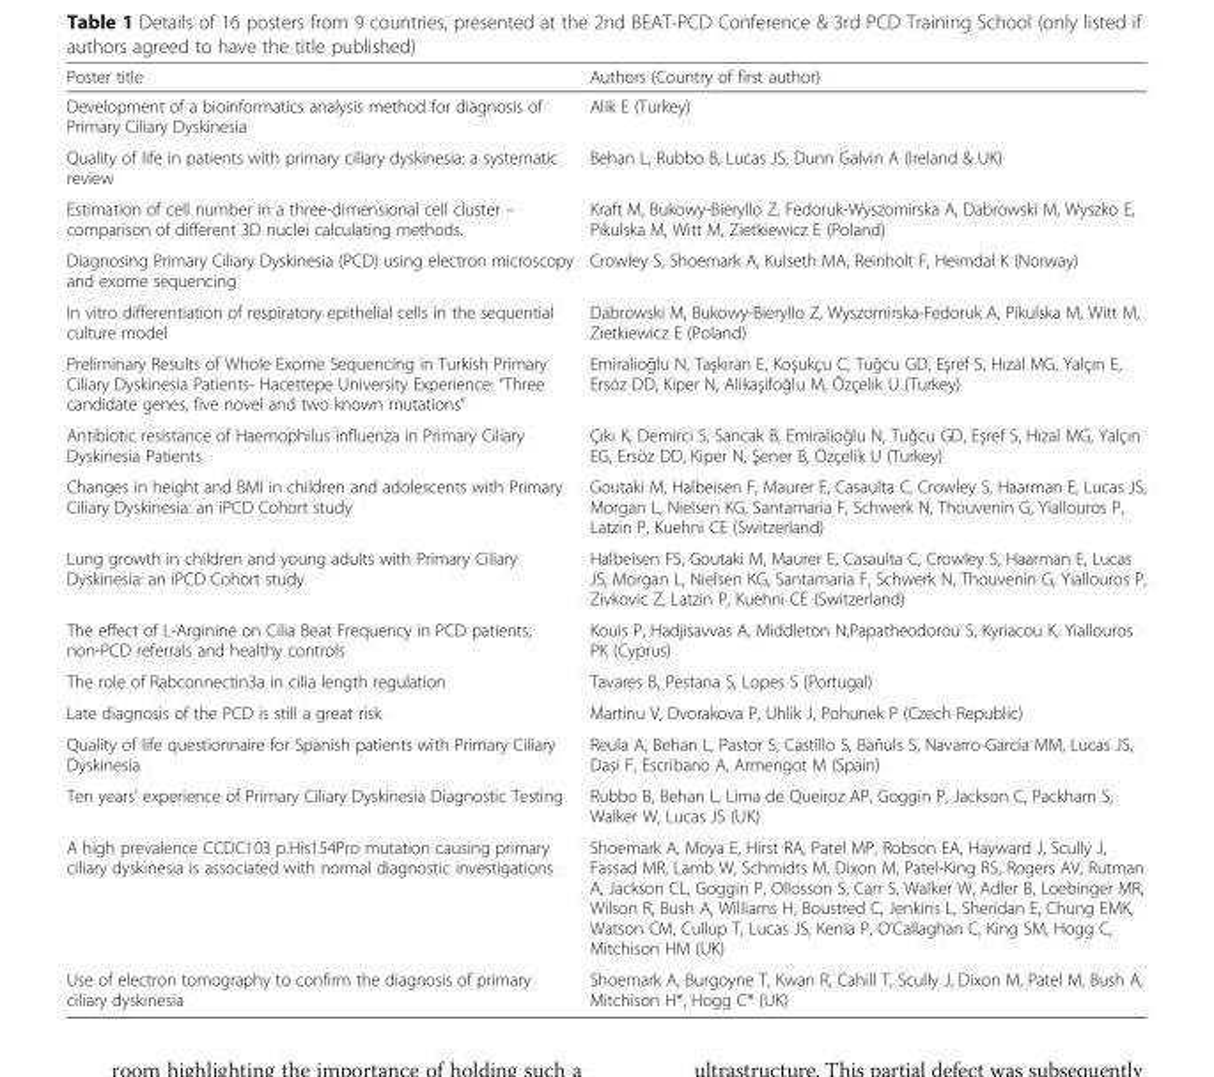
<table><thead><tr><td>Poster title</td><td>Authors (Country of first author)</td></tr></thead><tbody><tr><td>Development of a bioinformatics analysis method for diagnosis of Primary Ciliary Dyskinesia</td><td>Alik E (Turkey)</td></tr><tr><td>Quality of life in patients with primary ciliary dyskinesia: a systematic review</td><td>Behan L, Rubbo B, Lucas JS, Dunn Galvin A (Ireland &amp; UK)</td></tr><tr><td>Estimation of cell number in a three-dimensional cell cluster – comparison of different 3D nuclei calculating methods.</td><td>Kraft M, Bukowy-Bieryllo Z, Fedoruk-Wyszomirska A, Dabrowski M, Wyszko E, Pikulska M, Witt M, Zietkiewicz E (Poland)</td></tr><tr><td>Diagnosing Primary Ciliary Dyskinesia (PCD) using electron microscopy and exome sequencing</td><td>Crowley S, Shoemark A, Kulseth MA, Reinholt F, Heimdal K (Norway)</td></tr><tr><td>In vitro differentiation of respiratory epithelial cells in the sequential culture model</td><td>Dabrowski M, Bukowy-Bieryllo Z, Wyszomirska-Fedoruk A, Pikulska M, Witt M, Zietkiewicz E (Poland)</td></tr><tr><td>Preliminary Results of Whole Exome Sequencing in Turkish Primary Ciliary Dyskinesia Patients- Hacettepe University Experience: “Three candidate genes, five novel and two known mutations”</td><td>Emiralioğlu N, Taşkıran E, Koşukçu C, Tuğcu GD, Eşref S, Hızal MG, Yalçın E, Ersöz DD, Kiper N, Alikaşifoğlu M, Özçelik U (Turkey)</td></tr><tr><td>Antibiotic resistance of Haemophilus influenza in Primary Ciliary Dyskinesia Patients</td><td>Çıkı K, Demirci S, Sancak B, Emiralioğlu N, Tuğcu GD, Eşref S, Hızal MG, Yalçın EG, Ersöz DD, Kiper N, Şener B, Özçelik U (Turkey)</td></tr><tr><td>Changes in height and BMI in children and adolescents with Primary Ciliary Dyskinesia: an iPCD Cohort study</td><td>Goutaki M, Halbeisen F, Maurer E, Casaulta C, Crowley S, Haarman E, Lucas JS, Morgan L, Nielsen KG, Santamaria F, Schwerk N, Thouvenin G, Yiallouros P, Latzin P, Kuehni CE (Switzerland)</td></tr><tr><td>Lung growth in children and young adults with Primary Ciliary Dyskinesia: an iPCD Cohort study</td><td>Halbeisen FS, Goutaki M, Maurer E, Casaulta C, Crowley S, Haarman E, Lucas JS, Morgan L, Nielsen KG, Santamaria F, Schwerk N, Thouvenin G, Yiallouros P, Zivkovic Z, Latzin P, Kuehni CE (Switzerland)</td></tr><tr><td>The effect of L-Arginine on Cilia Beat Frequency in PCD patients, non-PCD referrals and healthy controls</td><td>Kouis P, Hadjisavvas A, Middleton N,Papatheodorou S, Kyriacou K, Yiallouros PK (Cyprus)</td></tr><tr><td>The role of Rabconnectin3a in cilia length regulation</td><td>Tavares B, Pestana S, Lopes S (Portugal)</td></tr><tr><td>Late diagnosis of the PCD is still a great risk</td><td>Martinu V, Dvorakova P, Uhlik J, Pohunek P (Czech Republic)</td></tr><tr><td>Quality of life questionnaire for Spanish patients with Primary Ciliary Dyskinesia</td><td>Reula A, Behan L, Pastor S, Castillo S, Bañuls S, Navarro-García MM, Lucas JS, Dasi F, Escribano A, Armengot M (Spain)</td></tr><tr><td>Ten years’ experience of Primary Ciliary Dyskinesia Diagnostic Testing</td><td>Rubbo B, Behan L, Lima de Queiroz AP, Goggin P, Jackson C, Packham S, Walker W, Lucas JS (UK)</td></tr><tr><td>A high prevalence CCDC103 p.His154Pro mutation causing primary ciliary dyskinesia is associated with normal diagnostic investigations</td><td>Shoemark A, Moya E, Hirst RA, Patel MP, Robson EA, Hayward J, Scully J, Fassad MR, Lamb W, Schmidts M, Dixon M, Patel-King RS, Rogers AV, Rutman A, Jackson CL, Goggin P, Ollosson S, Carr S, Walker W, Adler B, Loebinger MR, Wilson R, Bush A, Williams H, Boustred C, Jenkins L, Sheridan E, Chung EMK, Watson CM, Cullup T, Lucas JS, Kenia P, O’Callaghan C, King SM, Hogg C, Mitchison HM (UK)</td></tr><tr><td>Use of electron tomography to confirm the diagnosis of primary ciliary dyskinesia</td><td>Shoemark A, Burgoyne T, Kwan R, Cahill T, Scully J, Dixon M, Patel M, Bush A, Mitchison H*, Hogg C* (UK)</td></tr></tbody></table>